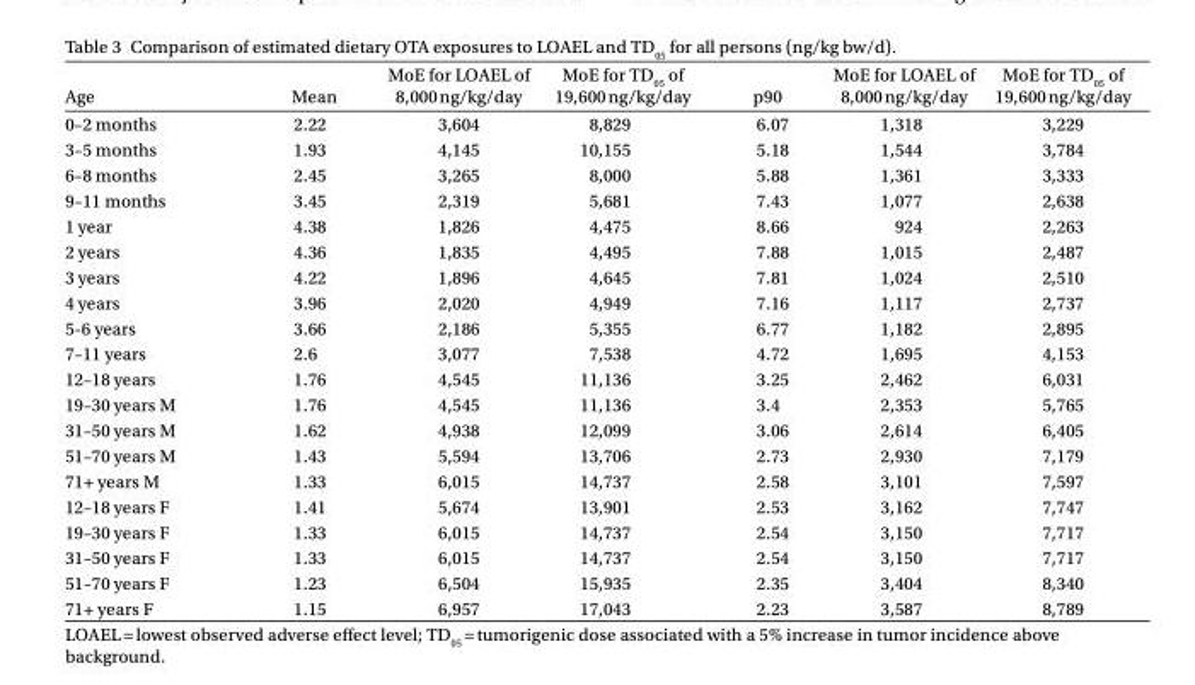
<table><thead><tr><td>Age</td><td>Mean</td><td>MoE for LOAEL of 8,000 ng/kg/day</td><td>MoE for TD<sub>05</sub> of 19,600 ng/kg/day</td><td>p90</td><td>MoE for LOAEL of 8,000 ng/kg/day</td><td>MoE for TD<sub>05</sub> of 19,600 ng/kg/day</td></tr></thead><tbody><tr><td>0–2 months</td><td>2.22</td><td>3,604</td><td>8,829</td><td>6.07</td><td>1,318</td><td>3,229</td></tr><tr><td>3–5 months</td><td>1.93</td><td>4,145</td><td>10,155</td><td>5.18</td><td>1,544</td><td>3,784</td></tr><tr><td>6–8 months</td><td>2.45</td><td>3,265</td><td>8,000</td><td>5.88</td><td>1,361</td><td>3,333</td></tr><tr><td>9–11 months</td><td>3.45</td><td>2,319</td><td>5,681</td><td>7.43</td><td>1,077</td><td>2,638</td></tr><tr><td>1 year</td><td>4.38</td><td>1,826</td><td>4,475</td><td>8.66</td><td>924</td><td>2,263</td></tr><tr><td>2 years</td><td>4.36</td><td>1,835</td><td>4,495</td><td>7.88</td><td>1,015</td><td>2,487</td></tr><tr><td>3 years</td><td>4.22</td><td>1,896</td><td>4,645</td><td>7.81</td><td>1,024</td><td>2,510</td></tr><tr><td>4 years</td><td>3.96</td><td>2,020</td><td>4,949</td><td>7.16</td><td>1,117</td><td>2,737</td></tr><tr><td>5-6 years</td><td>3.66</td><td>2,186</td><td>5,355</td><td>6.77</td><td>1,182</td><td>2,895</td></tr><tr><td>7–11 years</td><td>2.6</td><td>3,077</td><td>7,538</td><td>4.72</td><td>1,695</td><td>4,153</td></tr><tr><td>12–18 years</td><td>1.76</td><td>4,545</td><td>11,136</td><td>3.25</td><td>2,462</td><td>6,031</td></tr><tr><td>19–30 years M</td><td>1.76</td><td>4,545</td><td>11,136</td><td>3.4</td><td>2,353</td><td>5,765</td></tr><tr><td>31–50 years M</td><td>1.62</td><td>4,938</td><td>12,099</td><td>3.06</td><td>2,614</td><td>6,405</td></tr><tr><td>51–70 years M</td><td>1.43</td><td>5,594</td><td>13,706</td><td>2.73</td><td>2,930</td><td>7,179</td></tr><tr><td>71+ years M</td><td>1.33</td><td>6,015</td><td>14,737</td><td>2.58</td><td>3,101</td><td>7,597</td></tr><tr><td>12–18 years F</td><td>1.41</td><td>5,674</td><td>13,901</td><td>2.53</td><td>3,162</td><td>7,747</td></tr><tr><td>19–30 years F</td><td>1.33</td><td>6,015</td><td>14,737</td><td>2.54</td><td>3,150</td><td>7,717</td></tr><tr><td>31–50 years F</td><td>1.33</td><td>6,015</td><td>14,737</td><td>2.54</td><td>3,150</td><td>7,717</td></tr><tr><td>51–70 years F</td><td>1.23</td><td>6,504</td><td>15,935</td><td>2.35</td><td>3,404</td><td>8,340</td></tr><tr><td>71+ years F</td><td>1.15</td><td>6,957</td><td>17,043</td><td>2.23</td><td>3,587</td><td>8,789</td></tr></tbody></table>